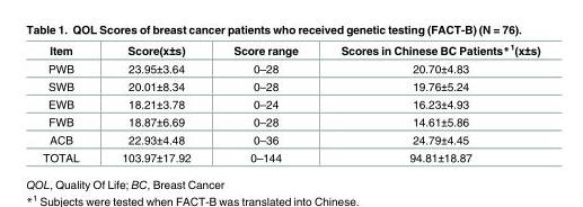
<table><thead><tr><td>Item</td><td>Score(x±s)</td><td>Score range</td><td>Scores in Chinese BC Patients*<sup>1</sup>(x±s)</td></tr></thead><tbody><tr><td>PWB</td><td>23.95±3.64</td><td>0–28</td><td>20.70±4.83</td></tr><tr><td>SWB</td><td>20.01±8.34</td><td>0–28</td><td>19.76±5.24</td></tr><tr><td>EWB</td><td>18.21±3.78</td><td>0–24</td><td>16.23±4.93</td></tr><tr><td>FWB</td><td>18.87±6.69</td><td>0–28</td><td>14.61±5.86</td></tr><tr><td>ACB</td><td>22.93±4.48</td><td>0–36</td><td>24.79±4.45</td></tr><tr><td>TOTAL</td><td>103.97±17.92</td><td>0–144</td><td>94.81±18.87</td></tr></tbody></table>